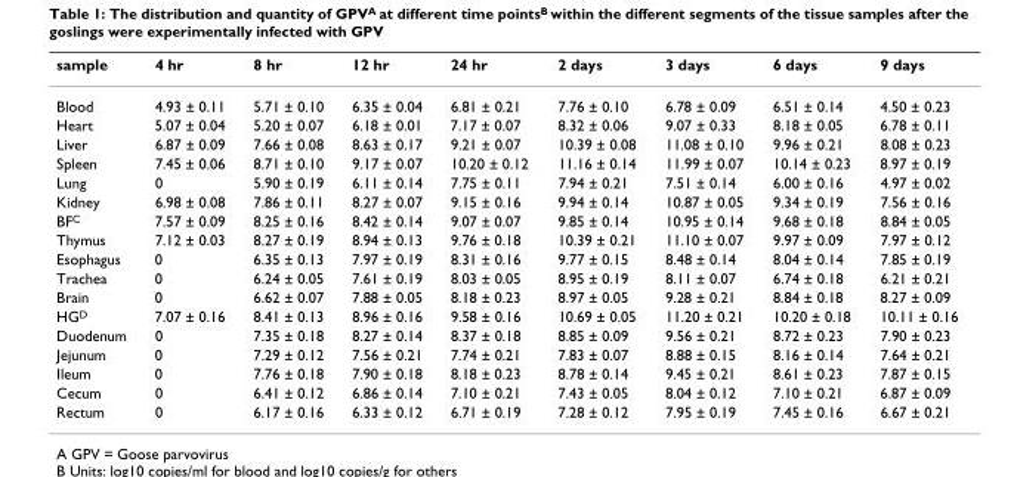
<table><thead><tr><td>sample</td><td>4 hr</td><td>8 hr</td><td>12 hr</td><td>24 hr</td><td>2 days</td><td>3 days</td><td>6 days</td><td>9 days</td></tr></thead><tbody><tr><td>Blood</td><td>4.93 ± 0.11</td><td>5.71 ± 0.10</td><td>6.35 ± 0.04</td><td>6.81 ± 0.21</td><td>7.76 ± 0.10</td><td>6.78 ± 0.09</td><td>6.51 ± 0.14</td><td>4.50 ± 0.23</td></tr><tr><td>Heart</td><td>5.07 ± 0.04</td><td>5.20 ± 0.07</td><td>6.18 ± 0.01</td><td>7.17 ± 0.07</td><td>8.32 ± 0.06</td><td>9.07 ± 0.33</td><td>8.18 ± 0.05</td><td>6.78 ± 0.11</td></tr><tr><td>Liver</td><td>6.87 ± 0.09</td><td>7.66 ± 0.08</td><td>8.63 ± 0.17</td><td>9.21 ± 0.07</td><td>10.39 ± 0.08</td><td>11.08 ± 0.10</td><td>9.96 ± 0.21</td><td>8.08 ± 0.23</td></tr><tr><td>Spleen</td><td>7.45 ± 0.06</td><td>8.71 ± 0.10</td><td>9.17 ± 0.07</td><td>10.20 ± 0.12</td><td>11.16 ± 0.14</td><td>11.99 ± 0.07</td><td>10.14 ± 0.23</td><td>8.97 ± 0.19</td></tr><tr><td>Lung</td><td>0</td><td>5.90 ± 0.19</td><td>6.11 ± 0.14</td><td>7.75 ± 0.11</td><td>7.94 ± 0.21</td><td>7.51 ± 0.14</td><td>6.00 ± 0.16</td><td>4.97 ± 0.02</td></tr><tr><td>Kidney</td><td>6.98 ± 0.08</td><td>7.86 ± 0.11</td><td>8.27 ± 0.07</td><td>9.15 ± 0.16</td><td>9.94 ± 0.14</td><td>10.87 ± 0.05</td><td>9.34 ± 0.19</td><td>7.56 ± 0.16</td></tr><tr><td>BF<sup>C</sup></td><td>7.57 ± 0.09</td><td>8.25 ± 0.16</td><td>8.42 ± 0.14</td><td>9.07 ± 0.07</td><td>9.85 ± 0.14</td><td>10.95 ± 0.14</td><td>9.68 ± 0.18</td><td>8.84 ± 0.05</td></tr><tr><td>Thymus</td><td>7.12 ± 0.03</td><td>8.27 ± 0.19</td><td>8.94 ± 0.13</td><td>9.76 ± 0.18</td><td>10.39 ± 0.21</td><td>11.10 ± 0.07</td><td>9.97 ± 0.09</td><td>7.97 ± 0.12</td></tr><tr><td>Esophagus</td><td>0</td><td>6.35 ± 0.13</td><td>7.97 ± 0.19</td><td>8.31 ± 0.16</td><td>9.77 ± 0.15</td><td>8.48 ± 0.14</td><td>8.04 ± 0.14</td><td>7.85 ± 0.19</td></tr><tr><td>Trachea</td><td>0</td><td>6.24 ± 0.05</td><td>7.61 ± 0.19</td><td>8.03 ± 0.05</td><td>8.95 ± 0.19</td><td>8.11 ± 0.07</td><td>6.74 ± 0.18</td><td>6.21 ± 0.21</td></tr><tr><td>Brain</td><td>0</td><td>6.62 ± 0.07</td><td>7.88 ± 0.05</td><td>8.18 ± 0.23</td><td>8.97 ± 0.05</td><td>9.28 ± 0.21</td><td>8.84 ± 0.18</td><td>8.27 ± 0.09</td></tr><tr><td>HG<sup>D</sup></td><td>7.07 ± 0.16</td><td>8.41 ± 0.13</td><td>8.96 ± 0.16</td><td>9.58 ± 0.16</td><td>10.69 ± 0.05</td><td>11.20 ± 0.21</td><td>10.20 ± 0.18</td><td>10.11 ± 0.16</td></tr><tr><td>Duodenum</td><td>0</td><td>7.35 ± 0.18</td><td>8.27 ± 0.14</td><td>8.37 ± 0.18</td><td>8.85 ± 0.09</td><td>9.56 ± 0.21</td><td>8.72 ± 0.23</td><td>7.90 ± 0.23</td></tr><tr><td>Jejunum</td><td>0</td><td>7.29 ± 0.12</td><td>7.56 ± 0.21</td><td>7.74 ± 0.21</td><td>7.83 ± 0.07</td><td>8.88 ± 0.15</td><td>8.16 ± 0.14</td><td>7.64 ± 0.21</td></tr><tr><td>Ileum</td><td>0</td><td>7.76 ± 0.18</td><td>7.90 ± 0.18</td><td>8.18 ± 0.23</td><td>8.78 ± 0.14</td><td>9.45 ± 0.21</td><td>8.61 ± 0.23</td><td>7.87 ± 0.15</td></tr><tr><td>Cecum</td><td>0</td><td>6.41 ± 0.12</td><td>6.86 ± 0.14</td><td>7.10 ± 0.21</td><td>7.43 ± 0.05</td><td>8.04 ± 0.12</td><td>7.10 ± 0.21</td><td>6.87 ± 0.09</td></tr><tr><td>Rectum</td><td>0</td><td>6.17 ± 0.16</td><td>6.33 ± 0.12</td><td>6.71 ± 0.19</td><td>7.28 ± 0.12</td><td>7.95 ± 0.19</td><td>7.45 ± 0.16</td><td>6.67 ± 0.21</td></tr></tbody></table>